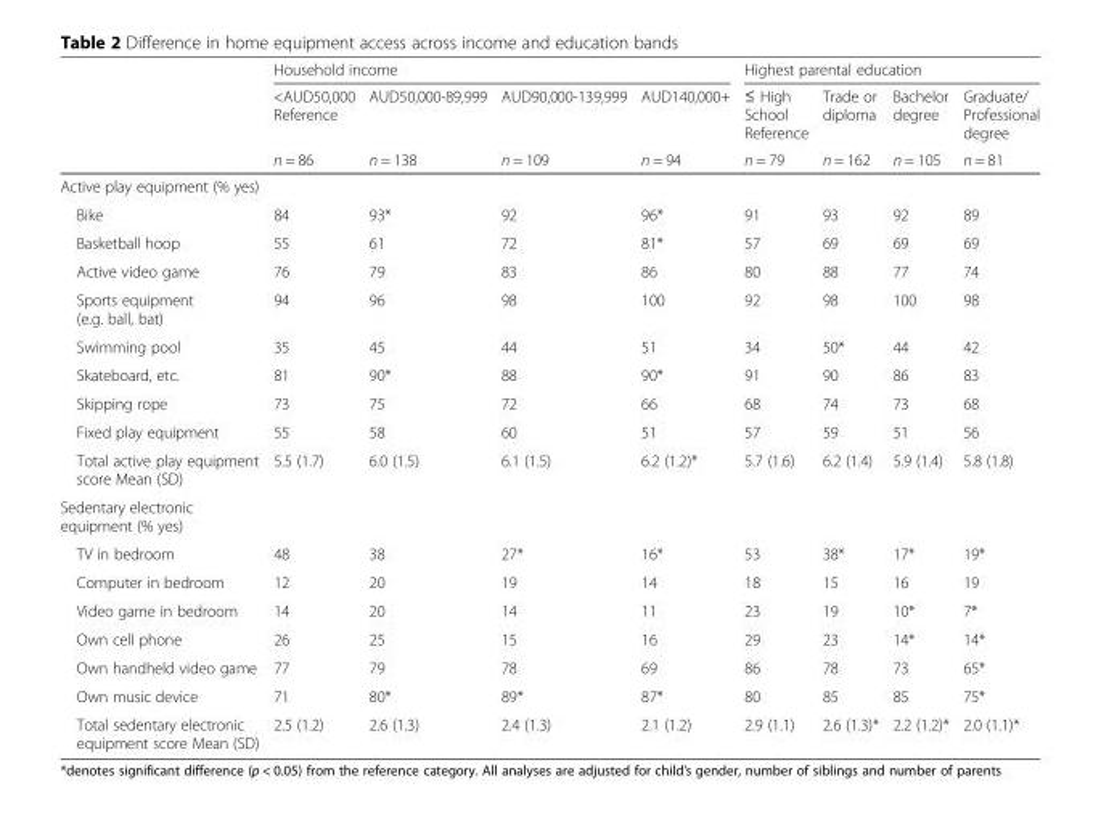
<table><thead><tr><td rowspan="3"></td><td colspan="4">Household income</td><td colspan="4">Highest parental education</td></tr><tr><td rowspan="2">&lt;AUD50,000 Reference n = 86</td><td rowspan="2">AUD50,000-89,999 n = 138</td><td rowspan="2">AUD90,000-139,999 n = 109</td><td rowspan="2">AUD140,000+ n = 94</td><td rowspan="2">≤ High School Reference n = 79</td><td rowspan="2">Trade or diploma n = 162</td><td rowspan="2">Bachelor degree n = 105</td><td rowspan="2">Graduate/ Professional degree n = 81</td></tr><tr></tr></thead><tbody><tr><td colspan="9">Active play equipment (% yes)</td></tr><tr><td>Bike</td><td>84</td><td>93*</td><td>92</td><td>96*</td><td>91</td><td>93</td><td>92</td><td>89</td></tr><tr><td>Basketball hoop</td><td>55</td><td>61</td><td>72</td><td>81*</td><td>57</td><td>69</td><td>69</td><td>69</td></tr><tr><td>Active video game</td><td>76</td><td>79</td><td>83</td><td>86</td><td>80</td><td>88</td><td>77</td><td>74</td></tr><tr><td>Sports equipment (e.g. ball, bat)</td><td>94</td><td>96</td><td>98</td><td>100</td><td>92</td><td>98</td><td>100</td><td>98</td></tr><tr><td>Swimming pool</td><td>35</td><td>45</td><td>44</td><td>51</td><td>34</td><td>50*</td><td>44</td><td>42</td></tr><tr><td>Skateboard, etc.</td><td>81</td><td>90*</td><td>88</td><td>90*</td><td>91</td><td>90</td><td>86</td><td>83</td></tr><tr><td>Skipping rope</td><td>73</td><td>75</td><td>72</td><td>66</td><td>68</td><td>74</td><td>73</td><td>68</td></tr><tr><td>Fixed play equipment</td><td>55</td><td>58</td><td>60</td><td>51</td><td>57</td><td>59</td><td>51</td><td>56</td></tr><tr><td>Total active play equipment score Mean (SD)</td><td>5.5 (1.7)</td><td>6.0 (1.5)</td><td>6.1 (1.5)</td><td>6.2 (1.2)*</td><td>5.7 (1.6)</td><td>6.2 (1.4)</td><td>5.9 (1.4)</td><td>5.8 (1.8)</td></tr><tr><td colspan="9">Sedentary electronic equipment (% yes)</td></tr><tr><td>TV in bedroom</td><td>48</td><td>38</td><td>27*</td><td>16*</td><td>53</td><td>38*</td><td>17*</td><td>19*</td></tr><tr><td>Computer in bedroom</td><td>12</td><td>20</td><td>19</td><td>14</td><td>18</td><td>15</td><td>16</td><td>19</td></tr><tr><td>Video game in bedroom</td><td>14</td><td>20</td><td>14</td><td>11</td><td>23</td><td>19</td><td>10*</td><td>7*</td></tr><tr><td>Own cell phone</td><td>26</td><td>25</td><td>15</td><td>16</td><td>29</td><td>23</td><td>14*</td><td>14*</td></tr><tr><td>Own handheld video game</td><td>77</td><td>79</td><td>78</td><td>69</td><td>86</td><td>78</td><td>73</td><td>65*</td></tr><tr><td>Own music device</td><td>71</td><td>80*</td><td>89*</td><td>87*</td><td>80</td><td>85</td><td>85</td><td>75*</td></tr><tr><td>Total sedentary electronic equipment score Mean (SD)</td><td>2.5 (1.2)</td><td>2.6 (1.3)</td><td>2.4 (1.3)</td><td>2.1 (1.2)</td><td>2.9 (1.1)</td><td>2.6 (1.3)*</td><td>2.2 (1.2)*</td><td>2.0 (1.1)*</td></tr></tbody></table>